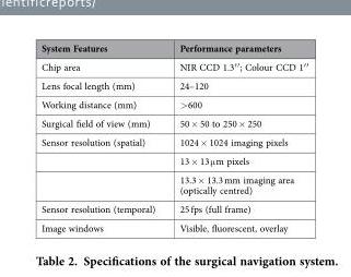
<table><thead><tr><td>System Features</td><td>Performance parameters</td></tr></thead><tbody><tr><td>Chip area</td><td>NIR CCD 1.3′ ′ ; Colour CCD 1′ ′</td></tr><tr><td>Lens focal length (mm)</td><td>24–120</td></tr><tr><td>Working distance (mm)</td><td>&gt; 600</td></tr><tr><td>Surgical field of view (mm)</td><td>50 × 50 to 250 × 250</td></tr><tr><td rowspan="3">Sensor resolution (spatial)</td><td>1024 × 1024 imaging pixels</td></tr><tr><td>13 × 13 μ m pixels</td></tr><tr><td>13.3 × 13.3 mm imaging area (optically centred)</td></tr><tr><td>Sensor resolution (temporal)</td><td>25 fps (full frame)</td></tr><tr><td>Image windows</td><td>Visible, fluorescent, overlay</td></tr></tbody></table>